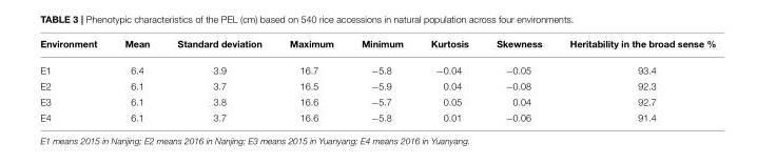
<table><thead><tr><td>Environment</td><td>Mean</td><td>Standard deviation</td><td>Maximum</td><td>Minimum</td><td>Kurtosis</td><td>Skewness</td><td>Heritability in the broad sense %</td></tr></thead><tbody><tr><td>E1</td><td>6.4</td><td>3.9</td><td>16.7</td><td>−5.8</td><td>−0.04</td><td>−0.05</td><td>93.4</td></tr><tr><td>E2</td><td>6.1</td><td>3.7</td><td>16.5</td><td>−5.9</td><td>0.04</td><td>−0.08</td><td>92.3</td></tr><tr><td>E3</td><td>6.1</td><td>3.8</td><td>16.6</td><td>−5.7</td><td>0.05</td><td>0.04</td><td>92.7</td></tr><tr><td>E4</td><td>6.1</td><td>3.7</td><td>16.6</td><td>−5.8</td><td>0.01</td><td>−0.06</td><td>91.4</td></tr></tbody></table>